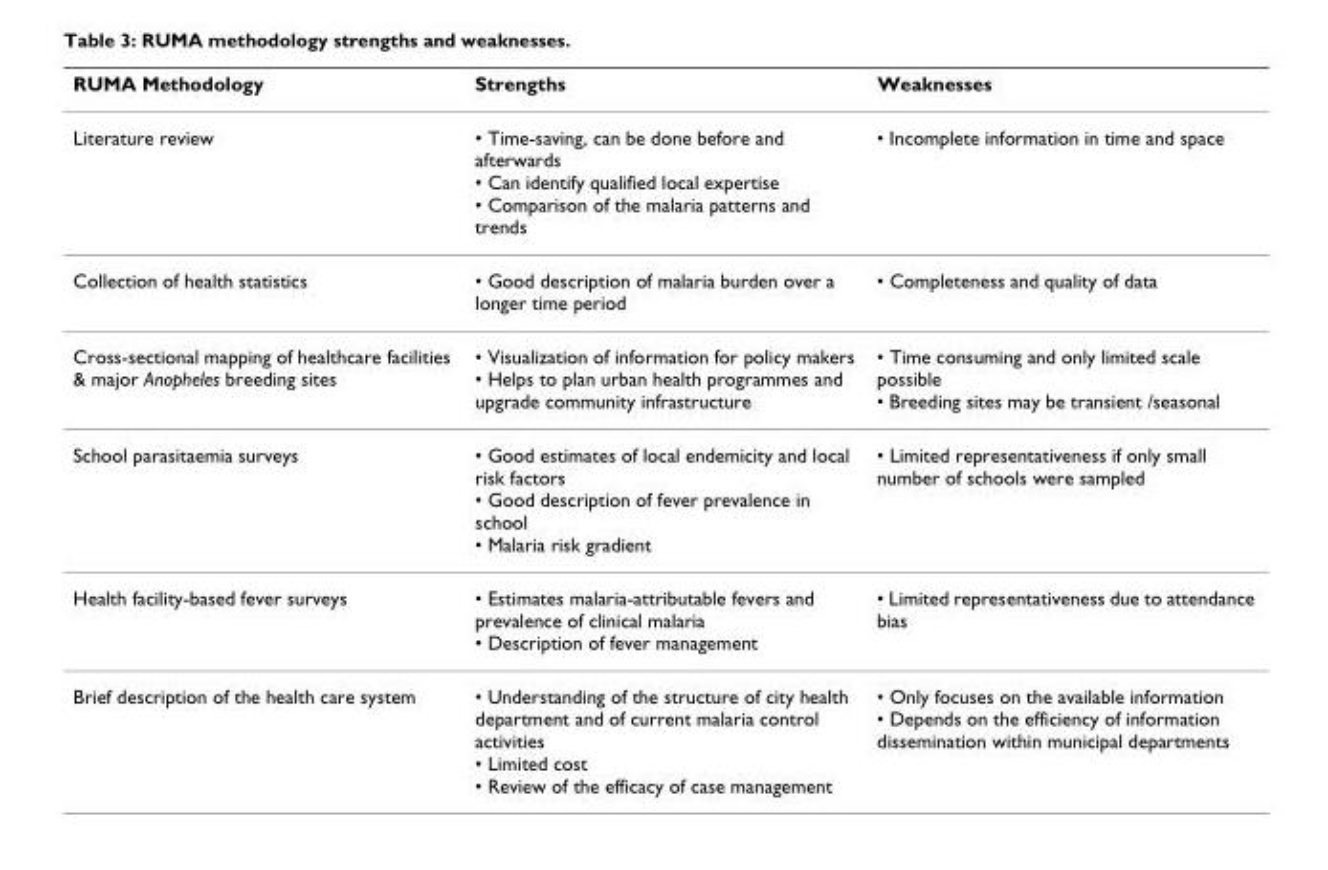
<table><thead><tr><td>RUMA Methodology</td><td>Strengths</td><td>Weaknesses</td></tr></thead><tbody><tr><td>Literature review</td><td>• Time-saving, can be done before and afterwards • Can identify qualified local expertise • Comparison of the malaria patterns and trends</td><td>• Incomplete information in time and space</td></tr><tr><td>Collection of health statistics</td><td>• Good description of malaria burden over a longer time period</td><td>• Completeness and quality of data</td></tr><tr><td>Cross-sectional mapping of healthcare facilities &amp; major Anopheles breeding sites</td><td>• Visualization of information for policy makers • Helps to plan urban health programmes and upgrade community infrastructure</td><td>• Time consuming and only limited scale possible • Breeding sites may be transient /seasonal</td></tr><tr><td>School parasitaemia surveys</td><td>• Good estimates of local endemicity and local risk factors • Good description of fever prevalence in school • Malaria risk gradient</td><td>• Limited representativeness if only small number of schools were sampled</td></tr><tr><td>Health facility-based fever surveys</td><td>• Estimates malaria-attributable fevers and prevalence of clinical malaria • Description of fever management</td><td>• Limited representativeness due to attendance bias</td></tr><tr><td>Brief description of the health care system</td><td>• Understanding of the structure of city health department and of current malaria control activities • Limited cost • Review of the efficacy of case management</td><td>• Only focuses on the available information • Depends on the efficiency of information dissemination within municipal departments</td></tr></tbody></table>